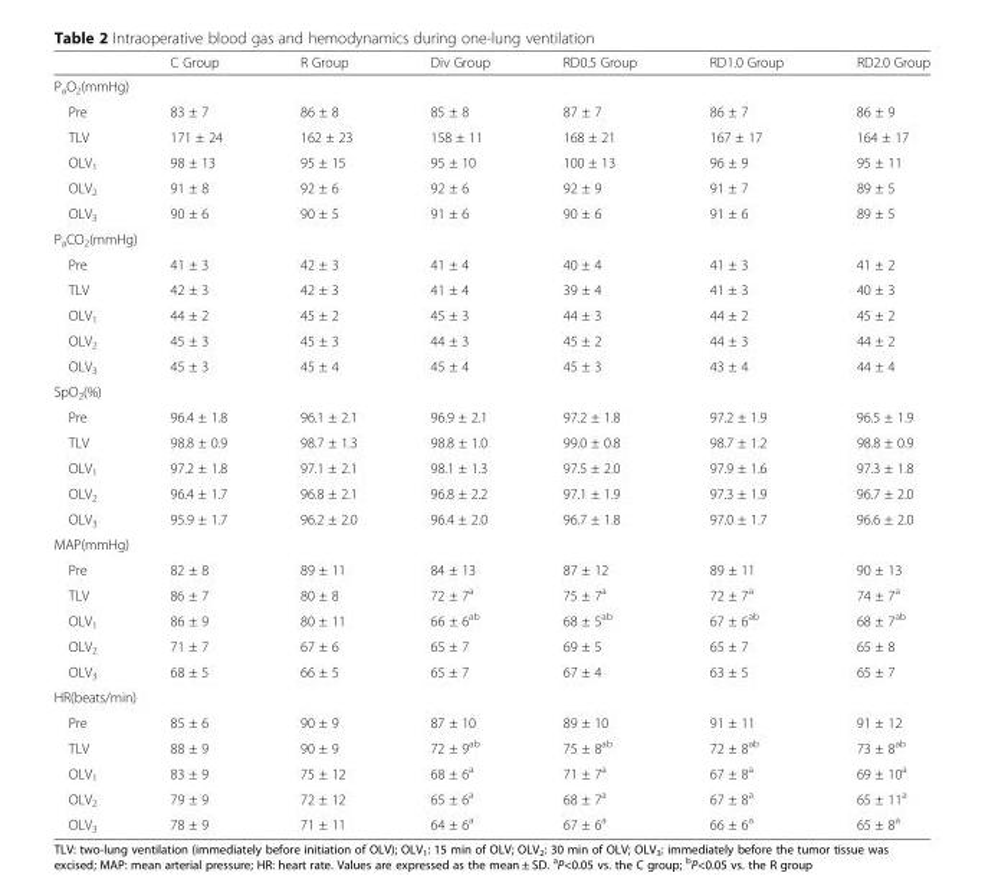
<table><thead><tr><td></td><td>C Group</td><td>R Group</td><td>Div Group</td><td>RD0.5 Group</td><td>RD1.0 Group</td><td>RD2.0 Group</td></tr></thead><tbody><tr><td colspan="7">P<sub>a</sub>O<sub>2</sub>(mmHg)</td></tr><tr><td>Pre</td><td>83 ± 7</td><td>86 ± 8</td><td>85 ± 8</td><td>87 ± 7</td><td>86 ± 7</td><td>86 ± 9</td></tr><tr><td>TLV</td><td>171 ± 24</td><td>162 ± 23</td><td>158 ± 11</td><td>168 ± 21</td><td>167 ± 17</td><td>164 ± 17</td></tr><tr><td>OLV<sub>1</sub></td><td>98 ± 13</td><td>95 ± 15</td><td>95 ± 10</td><td>100 ± 13</td><td>96 ± 9</td><td>95 ± 11</td></tr><tr><td>OLV<sub>2</sub></td><td>91 ± 8</td><td>92 ± 6</td><td>92 ± 6</td><td>92 ± 9</td><td>91 ± 7</td><td>89 ± 5</td></tr><tr><td>OLV<sub>3</sub></td><td>90 ± 6</td><td>90 ± 5</td><td>91 ± 6</td><td>90 ± 6</td><td>91 ± 6</td><td>89 ± 5</td></tr><tr><td colspan="7">P<sub>a</sub>CO<sub>2</sub>(mmHg)</td></tr><tr><td>Pre</td><td>41 ± 3</td><td>42 ± 3</td><td>41 ± 4</td><td>40 ± 4</td><td>41 ± 3</td><td>41 ± 2</td></tr><tr><td>TLV</td><td>42 ± 3</td><td>42 ± 3</td><td>41 ± 4</td><td>39 ± 4</td><td>41 ± 3</td><td>40 ± 3</td></tr><tr><td>OLV<sub>1</sub></td><td>44 ± 2</td><td>45 ± 2</td><td>45 ± 3</td><td>44 ± 3</td><td>44 ± 2</td><td>45 ± 2</td></tr><tr><td>OLV<sub>2</sub></td><td>45 ± 3</td><td>45 ± 3</td><td>44 ± 3</td><td>45 ± 2</td><td>44 ± 3</td><td>44 ± 2</td></tr><tr><td>OLV<sub>3</sub></td><td>45 ± 3</td><td>45 ± 4</td><td>45 ± 4</td><td>45 ± 3</td><td>43 ± 4</td><td>44 ± 4</td></tr><tr><td colspan="7">SpO<sub>2</sub>(%)</td></tr><tr><td>Pre</td><td>96.4 ± 1.8</td><td>96.1 ± 2.1</td><td>96.9 ± 2.1</td><td>97.2 ± 1.8</td><td>97.2 ± 1.9</td><td>96.5 ± 1.9</td></tr><tr><td>TLV</td><td>98.8 ± 0.9</td><td>98.7 ± 1.3</td><td>98.8 ± 1.0</td><td>99.0 ± 0.8</td><td>98.7 ± 1.2</td><td>98.8 ± 0.9</td></tr><tr><td>OLV<sub>1</sub></td><td>97.2 ± 1.8</td><td>97.1 ± 2.1</td><td>98.1 ± 1.3</td><td>97.5 ± 2.0</td><td>97.9 ± 1.6</td><td>97.3 ± 1.8</td></tr><tr><td>OLV<sub>2</sub></td><td>96.4 ± 1.7</td><td>96.8 ± 2.1</td><td>96.8 ± 2.2</td><td>97.1 ± 1.9</td><td>97.3 ± 1.9</td><td>96.7 ± 2.0</td></tr><tr><td>OLV<sub>3</sub></td><td>95.9 ± 1.7</td><td>96.2 ± 2.0</td><td>96.4 ± 2.0</td><td>96.7 ± 1.8</td><td>97.0 ± 1.7</td><td>96.6 ± 2.0</td></tr><tr><td colspan="7">MAP(mmHg)</td></tr><tr><td>Pre</td><td>82 ± 8</td><td>89 ± 11</td><td>84 ± 13</td><td>87 ± 12</td><td>89 ± 11</td><td>90 ± 13</td></tr><tr><td>TLV</td><td>86 ± 7</td><td>80 ± 8</td><td>72 ± 7<sup>a</sup></td><td>75 ± 7<sup>a</sup></td><td>72 ± 7<sup>a</sup></td><td>74 ± 7<sup>a</sup></td></tr><tr><td>OLV<sub>1</sub></td><td>86 ± 9</td><td>80 ± 11</td><td>66 ± 6<sup>ab</sup></td><td>68 ± 5<sup>ab</sup></td><td>67 ± 6<sup>ab</sup></td><td>68 ± 7<sup>ab</sup></td></tr><tr><td>OLV<sub>2</sub></td><td>71 ± 7</td><td>67 ± 6</td><td>65 ± 7</td><td>69 ± 5</td><td>65 ± 7</td><td>65 ± 8</td></tr><tr><td>OLV<sub>3</sub></td><td>68 ± 5</td><td>66 ± 5</td><td>65 ± 7</td><td>67 ± 4</td><td>63 ± 5</td><td>65 ± 7</td></tr><tr><td colspan="7">HR(beats/min)</td></tr><tr><td>Pre</td><td>85 ± 6</td><td>90 ± 9</td><td>87 ± 10</td><td>89 ± 10</td><td>91 ± 11</td><td>91 ± 12</td></tr><tr><td>TLV</td><td>88 ± 9</td><td>90 ± 9</td><td>72 ± 9<sup>ab</sup></td><td>75 ± 8<sup>ab</sup></td><td>72 ± 8<sup>ab</sup></td><td>73 ± 8<sup>ab</sup></td></tr><tr><td>OLV<sub>1</sub></td><td>83 ± 9</td><td>75 ± 12</td><td>68 ± 6<sup>a</sup></td><td>71 ± 7<sup>a</sup></td><td>67 ± 8<sup>a</sup></td><td>69 ± 10<sup>a</sup></td></tr><tr><td>OLV<sub>2</sub></td><td>79 ± 9</td><td>72 ± 12</td><td>65 ± 6<sup>a</sup></td><td>68 ± 7<sup>a</sup></td><td>67 ± 8<sup>a</sup></td><td>65 ± 11<sup>a</sup></td></tr><tr><td>OLV<sub>3</sub></td><td>78 ± 9</td><td>71 ± 11</td><td>64 ± 6<sup>a</sup></td><td>67 ± 6<sup>a</sup></td><td>66 ± 6<sup>a</sup></td><td>65 ± 8<sup>a</sup></td></tr></tbody></table>